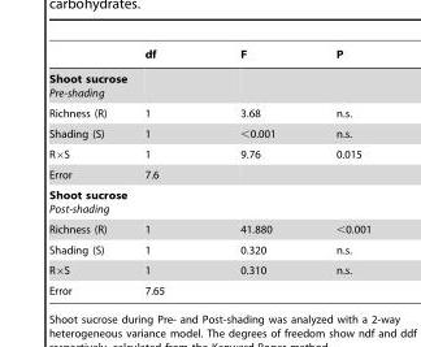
<table><thead><tr><td></td><td>df</td><td>F</td><td>P</td></tr></thead><tbody><tr><td colspan="4">Shoot sucrose Pre-shading</td></tr><tr><td>Richness (R)</td><td>1</td><td>3.68</td><td>n.s.</td></tr><tr><td>Shading (S)</td><td>1</td><td>&lt;0.001</td><td>n.s.</td></tr><tr><td>R×S</td><td>1</td><td>9.76</td><td>0.015</td></tr><tr><td>Error</td><td>7.6</td><td></td><td></td></tr><tr><td colspan="4">Shoot sucrose Post-shading</td></tr><tr><td>Richness (R)</td><td>1</td><td>41.880</td><td>&lt;0.001</td></tr><tr><td>Shading (S)</td><td>1</td><td>0.320</td><td>n.s.</td></tr><tr><td>R×S</td><td>1</td><td>0.310</td><td>n.s.</td></tr><tr><td>Error</td><td>7.65</td><td></td><td></td></tr></tbody></table>